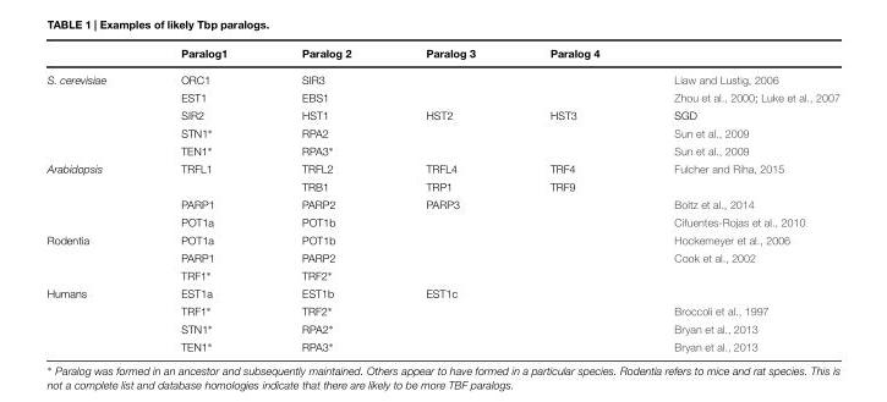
<table><thead><tr><td></td><td>Paralog1</td><td>Paralog 2</td><td>Paralog 3</td><td>Paralog 4</td><td></td></tr></thead><tbody><tr><td rowspan="5">S. cerevisiae</td><td>ORC1</td><td>SIR3</td><td></td><td></td><td>Liaw and Lustig, 2006</td></tr><tr><td>EST1</td><td>EBS1</td><td></td><td></td><td>Zhou et al., 2000; Luke et al., 2007</td></tr><tr><td>SIR2</td><td>HST1</td><td>HST2</td><td>HST3</td><td>SGD</td></tr><tr><td>STN1∗</td><td>RPA2</td><td></td><td></td><td>Sun et al., 2009</td></tr><tr><td>TEN1∗</td><td>RPA3∗</td><td></td><td></td><td>Sun et al., 2009</td></tr><tr><td rowspan="4">Arabidopsis</td><td>TRFL1</td><td>TRFL2</td><td>TRFL4</td><td>TRF4</td><td>Fulcher and Riha, 2015</td></tr><tr><td></td><td>TRB1</td><td>TRP1</td><td>TRF9</td><td></td></tr><tr><td>PARP1</td><td>PARP2</td><td>PARP3</td><td></td><td>Boltz et al., 2014</td></tr><tr><td>POT1a</td><td>POT1b</td><td></td><td></td><td>Cifuentes-Rojas et al., 2010</td></tr><tr><td rowspan="3">Rodentia</td><td>POT1a</td><td>POT1b</td><td></td><td></td><td>Hockemeyer et al., 2006</td></tr><tr><td>PARP1</td><td>PARP2</td><td></td><td></td><td>Cook et al., 2002</td></tr><tr><td>TRF1∗</td><td>TRF2∗</td><td></td><td></td><td></td></tr><tr><td rowspan="4">Humans</td><td>EST1a</td><td>EST1b</td><td>EST1c</td><td></td><td></td></tr><tr><td>TRF1∗</td><td>TRF2∗</td><td></td><td></td><td>Broccoli et al., 1997</td></tr><tr><td>STN1∗</td><td>RPA2∗</td><td></td><td></td><td>Bryan et al., 2013</td></tr><tr><td>TEN1∗</td><td>RPA3∗</td><td></td><td></td><td>Bryan et al., 2013</td></tr></tbody></table>